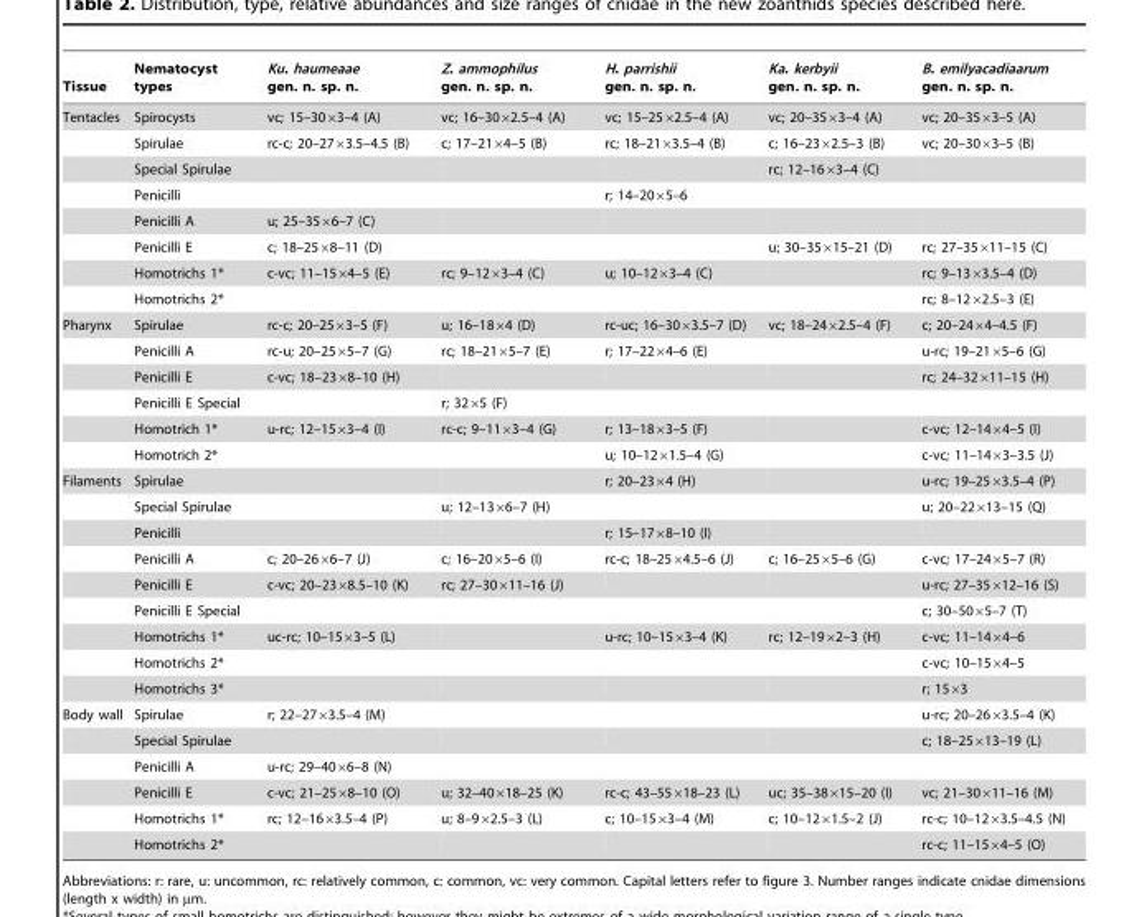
<table><thead><tr><td>Tissue</td><td>Nematocyst types</td><td>Ku. haumeaae gen. n. sp. n.</td><td>Z. ammophilus gen. n. sp. n.</td><td>H. parrishii gen. n. sp. n.</td><td>Ka. kerbyii gen. n. sp. n.</td><td>B. emilyacadiaarum gen. n. sp. n.</td></tr></thead><tbody><tr><td rowspan="8">Tentacles</td><td>Spirocysts</td><td>vc; 15–30×3–4 (A)</td><td>vc; 16–30×2.5–4 (A)</td><td>vc; 15–25×2.5–4 (A)</td><td>vc; 20–35×3–4 (A)</td><td>vc; 20–35×3–5 (A)</td></tr><tr><td>Spirulae</td><td>rc-c; 20–27×3.5–4.5 (B)</td><td>c; 17–21×4–5 (B)</td><td>rc; 18–21×3.5–4 (B)</td><td>c; 16–23×2.5–3 (B)</td><td>vc; 20–30×3–5 (B)</td></tr><tr><td>Special Spirulae</td><td></td><td></td><td></td><td>rc; 12–16×3–4 (C)</td><td></td></tr><tr><td>Penicilli</td><td></td><td></td><td>r; 14–20×5–6</td><td></td><td></td></tr><tr><td>Penicilli A</td><td>u; 25–35×6–7 (C)</td><td></td><td></td><td></td><td></td></tr><tr><td>Penicilli E</td><td>c; 18–25×8–11 (D)</td><td></td><td></td><td>u; 30–35×15–21 (D)</td><td>rc; 27–35×11–15 (C)</td></tr><tr><td>Homotrichs 1*</td><td>c-vc; 11–15×4–5 (E)</td><td>rc; 9–12×3–4 (C)</td><td>u; 10–12×3–4 (C)</td><td></td><td>rc; 9–13×3.5–4 (D)</td></tr><tr><td>Homotrichs 2*</td><td></td><td></td><td></td><td></td><td>rc; 8–12×2.5–3 (E)</td></tr><tr><td rowspan="6">Pharynx</td><td>Spirulae</td><td>rc-c; 20–25×3–5 (F)</td><td>u; 16–18×4 (D)</td><td>rc-uc; 16–30×3.5–7 (D)</td><td>vc; 18–24×2.5–4 (F)</td><td>c; 20–24×4–4.5 (F)</td></tr><tr><td>Penicilli A</td><td>rc-u; 20–25×5–7 (G)</td><td>rc; 18–21×5–7 (E)</td><td>r; 17–22×4–6 (E)</td><td></td><td>u-rc; 19–21×5–6 (G)</td></tr><tr><td>Penicilli E</td><td>c-vc; 18–23×8–10 (H)</td><td></td><td></td><td></td><td>rc; 24–32×11–15 (H)</td></tr><tr><td>Penicilli E Special</td><td></td><td>r; 32×5 (F)</td><td></td><td></td><td></td></tr><tr><td>Homotrich 1*</td><td>u-rc; 12–15×3–4 (I)</td><td>rc-c; 9–11×3–4 (G)</td><td>r; 13–18×3–5 (F)</td><td></td><td>c-vc; 12–14×4–5 (I)</td></tr><tr><td>Homotrich 2*</td><td></td><td></td><td>u; 10–12×1.5–4 (G)</td><td></td><td>c-vc; 11–14×3–3.5 (J)</td></tr><tr><td rowspan="9">Filaments</td><td>Spirulae</td><td></td><td></td><td>r; 20–23×4 (H)</td><td></td><td>u-rc; 19–25×3.5–4 (P)</td></tr><tr><td>Special Spirulae</td><td></td><td>u; 12–13×6–7 (H)</td><td></td><td></td><td>u; 20–22×13–15 (Q)</td></tr><tr><td>Penicilli</td><td></td><td></td><td>r; 15–17×8–10 (I)</td><td></td><td></td></tr><tr><td>Penicilli A</td><td>c; 20–26×6–7 (J)</td><td>c; 16–20×5–6 (I)</td><td>rc-c; 18–25×4.5–6 (J)</td><td>c; 16–25×5–6 (G)</td><td>c-vc; 17–24×5–7 (R)</td></tr><tr><td>Penicilli E</td><td>c-vc; 20–23×8.5–10 (K)</td><td>rc; 27–30×11–16 (J)</td><td></td><td></td><td>u-rc; 27–35×12–16 (S)</td></tr><tr><td>Penicilli E Special</td><td></td><td></td><td></td><td></td><td>c; 30–50×5–7 (T)</td></tr><tr><td>Homotrichs 1*</td><td>uc-rc; 10–15×3–5 (L)</td><td></td><td>u-rc; 10–15×3–4 (K)</td><td>rc; 12–19×2–3 (H)</td><td>c-vc; 11–14×4–6</td></tr><tr><td>Homotrichs 2*</td><td></td><td></td><td></td><td></td><td>c-vc; 10–15×4–5</td></tr><tr><td>Homotrichs 3*</td><td></td><td></td><td></td><td></td><td>r; 15×3</td></tr><tr><td rowspan="6">Body wall</td><td>Spirulae</td><td>r; 22–27×3.5–4 (M)</td><td></td><td></td><td></td><td>u-rc; 20–26×3.5–4 (K)</td></tr><tr><td>Special Spirulae</td><td></td><td></td><td></td><td></td><td>c; 18–25×13–19 (L)</td></tr><tr><td>Penicilli A</td><td>u-rc; 29–40×6–8 (N)</td><td></td><td></td><td></td><td></td></tr><tr><td>Penicilli E</td><td>c-vc; 21–25×8–10 (O)</td><td>u; 32–40×18–25 (K)</td><td>rc-c; 43–55×18–23 (L)</td><td>uc; 35–38×15–20 (I)</td><td>vc; 21–30×11–16 (M)</td></tr><tr><td>Homotrichs 1*</td><td>rc; 12–16×3.5–4 (P)</td><td>u; 8–9×2.5–3 (L)</td><td>c; 10–15×3–4 (M)</td><td>c; 10–12×1.5–2 (J)</td><td>rc-c; 10–12×3.5–4.5 (N)</td></tr><tr><td>Homotrichs 2*</td><td></td><td></td><td></td><td></td><td>rc-c; 11–15×4–5 (O)</td></tr></tbody></table>